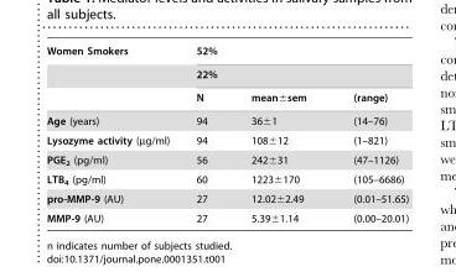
<table><thead><tr><td rowspan="3">Women Smokers</td><td rowspan="2" colspan="3">52% 22%</td></tr><tr></tr><tr><td>N</td><td>mean±sem</td><td>(range)</td></tr></thead><tbody><tr><td>Age (years)</td><td>94</td><td>36±1</td><td>(14–76)</td></tr><tr><td>Lysozyme activity (µg/ml)</td><td>94</td><td>108±12</td><td>(1–821)</td></tr><tr><td>PGE<sub>2</sub> (pg/ml)</td><td>56</td><td>242±31</td><td>(47–1126)</td></tr><tr><td>LTB<sub>4</sub> (pg/ml)</td><td>60</td><td>1223±170</td><td>(105–6686)</td></tr><tr><td>pro-MMP-9 (AU)</td><td>27</td><td>12.02±2.49</td><td>(0.01–51.65)</td></tr><tr><td>MMP-9 (AU)</td><td>27</td><td>5.39±1.14</td><td>(0.00–20.01)</td></tr></tbody></table>